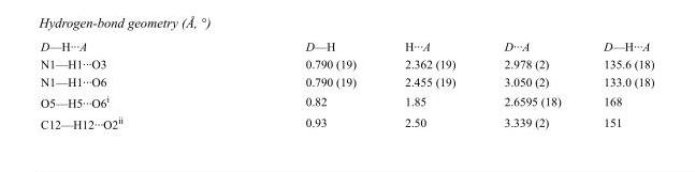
<table><tbody><tr><td>D—H···A</td><td>D—H</td><td>H···A</td><td>D···A</td><td>D—H···A</td></tr><tr><td>N1—H1···O3</td><td>0.790 (19)</td><td>2.362 (19)</td><td>2.978 (2)</td><td>135.6 (18)</td></tr><tr><td>N1—H1···O6</td><td>0.790 (19)</td><td>2.455 (19)</td><td>3.050 (2)</td><td>133.0 (18)</td></tr><tr><td>O5—H5···O6<sup>i</sup></td><td>0.82</td><td>1.85</td><td>2.6595 (18)</td><td>168</td></tr><tr><td>C12—H12···O2<sup>ii</sup></td><td>0.93</td><td>2.50</td><td>3.339 (2)</td><td>151</td></tr></tbody></table>